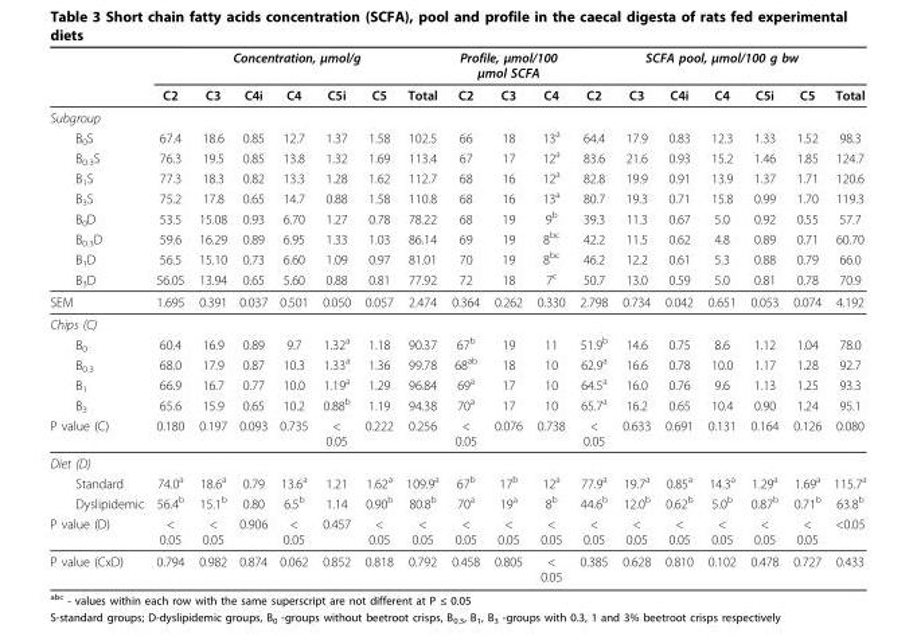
<table><thead><tr><td rowspan="2"></td><td colspan="7">Concentration, μmol/g</td><td colspan="3">Profile, μmol/100 μmol SCFA</td><td colspan="7">SCFA pool, μmol/100 g bw</td></tr><tr><td>C2</td><td>C3</td><td>C4i</td><td>C4</td><td>C5i</td><td>C5</td><td>Total</td><td>C2</td><td>C3</td><td>C4</td><td>C2</td><td>C3</td><td>C4i</td><td>C4</td><td>C5i</td><td>C5</td><td>Total</td></tr></thead><tbody><tr><td colspan="18">Subgroup</td></tr><tr><td>B<sub>0</sub>S</td><td>67.4</td><td>18.6</td><td>0.85</td><td>12.7</td><td>1.37</td><td>1.58</td><td>102.5</td><td>66</td><td>18</td><td>13<sup>a</sup></td><td>64.4</td><td>17.9</td><td>0.83</td><td>12.3</td><td>1.33</td><td>1.52</td><td>98.3</td></tr><tr><td>B<sub>0.3</sub>S</td><td>76.3</td><td>19.5</td><td>0.85</td><td>13.8</td><td>1.32</td><td>1.69</td><td>113.4</td><td>67</td><td>17</td><td>12<sup>a</sup></td><td>83.6</td><td>21.6</td><td>0.93</td><td>15.2</td><td>1.46</td><td>1.85</td><td>124.7</td></tr><tr><td>B<sub>1</sub>S</td><td>77.3</td><td>18.3</td><td>0.82</td><td>13.3</td><td>1.28</td><td>1.62</td><td>112.7</td><td>68</td><td>16</td><td>12<sup>a</sup></td><td>82.8</td><td>19.9</td><td>0.91</td><td>13.9</td><td>1.37</td><td>1.71</td><td>120.6</td></tr><tr><td>B<sub>3</sub>S</td><td>75.2</td><td>17.8</td><td>0.65</td><td>14.7</td><td>0.88</td><td>1.58</td><td>110.8</td><td>68</td><td>16</td><td>13<sup>a</sup></td><td>80.7</td><td>19.3</td><td>0.71</td><td>15.8</td><td>0.99</td><td>1.70</td><td>119.3</td></tr><tr><td>B<sub>0</sub>D</td><td>53.5</td><td>15.08</td><td>0.93</td><td>6.70</td><td>1.27</td><td>0.78</td><td>78.22</td><td>68</td><td>19</td><td>9<sup>b</sup></td><td>39.3</td><td>11.3</td><td>0.67</td><td>5.0</td><td>0.92</td><td>0.55</td><td>57.7</td></tr><tr><td>B<sub>0.3</sub>D</td><td>59.6</td><td>16.29</td><td>0.89</td><td>6.95</td><td>1.33</td><td>1.03</td><td>86.14</td><td>69</td><td>19</td><td>8<sup>bc</sup></td><td>42.2</td><td>11.5</td><td>0.62</td><td>4.8</td><td>0.89</td><td>0.71</td><td>60.70</td></tr><tr><td>B<sub>1</sub>D</td><td>56.5</td><td>15.10</td><td>0.73</td><td>6.60</td><td>1.09</td><td>0.97</td><td>81.01</td><td>70</td><td>19</td><td>8<sup>bc</sup></td><td>46.2</td><td>12.2</td><td>0.61</td><td>5.3</td><td>0.88</td><td>0.79</td><td>66.0</td></tr><tr><td>B<sub>3</sub>D</td><td>56.05</td><td>13.94</td><td>0.65</td><td>5.60</td><td>0.88</td><td>0.81</td><td>77.92</td><td>72</td><td>18</td><td>7<sup>c</sup></td><td>50.7</td><td>13.0</td><td>0.59</td><td>5.0</td><td>0.81</td><td>0.78</td><td>70.9</td></tr><tr><td>SEM</td><td>1.695</td><td>0.391</td><td>0.037</td><td>0.501</td><td>0.050</td><td>0.057</td><td>2.474</td><td>0.364</td><td>0.262</td><td>0.330</td><td>2.798</td><td>0.734</td><td>0.042</td><td>0.651</td><td>0.053</td><td>0.074</td><td>4.192</td></tr><tr><td colspan="18">Chips (C)</td></tr><tr><td>B<sub>0</sub></td><td>60.4</td><td>16.9</td><td>0.89</td><td>9.7</td><td>1.32<sup>a</sup></td><td>1.18</td><td>90.37</td><td>67<sup>b</sup></td><td>19</td><td>11</td><td>51.9<sup>b</sup></td><td>14.6</td><td>0.75</td><td>8.6</td><td>1.12</td><td>1.04</td><td>78.0</td></tr><tr><td>B<sub>0.3</sub></td><td>68.0</td><td>17.9</td><td>0.87</td><td>10.3</td><td>1.33<sup>a</sup></td><td>1.36</td><td>99.78</td><td>68<sup>ab</sup></td><td>18</td><td>10</td><td>62.9<sup>a</sup></td><td>16.6</td><td>0.78</td><td>10.0</td><td>1.17</td><td>1.28</td><td>92.7</td></tr><tr><td>B<sub>1</sub></td><td>66.9</td><td>16.7</td><td>0.77</td><td>10.0</td><td>1.19<sup>a</sup></td><td>1.29</td><td>96.84</td><td>69<sup>a</sup></td><td>17</td><td>10</td><td>64.5<sup>a</sup></td><td>16.0</td><td>0.76</td><td>9.6</td><td>1.13</td><td>1.25</td><td>93.3</td></tr><tr><td>B<sub>3</sub></td><td>65.6</td><td>15.9</td><td>0.65</td><td>10.2</td><td>0.88<sup>b</sup></td><td>1.19</td><td>94.38</td><td>70<sup>a</sup></td><td>17</td><td>10</td><td>65.7<sup>a</sup></td><td>16.2</td><td>0.65</td><td>10.4</td><td>0.90</td><td>1.24</td><td>95.1</td></tr><tr><td>P value (C)</td><td>0.180</td><td>0.197</td><td>0.093</td><td>0.735</td><td>&lt; 0.05</td><td>0.222</td><td>0.256</td><td>&lt; 0.05</td><td>0.076</td><td>0.738</td><td>&lt; 0.05</td><td>0.633</td><td>0.691</td><td>0.131</td><td>0.164</td><td>0.126</td><td>0.080</td></tr><tr><td colspan="18">Diet (D)</td></tr><tr><td>Standard</td><td>74.0<sup>a</sup></td><td>18.6<sup>a</sup></td><td>0.79</td><td>13.6<sup>a</sup></td><td>1.21</td><td>1.62<sup>a</sup></td><td>109.9<sup>a</sup></td><td>67<sup>b</sup></td><td>17<sup>b</sup></td><td>12<sup>a</sup></td><td>77.9<sup>a</sup></td><td>19.7<sup>a</sup></td><td>0.85<sup>a</sup></td><td>14.3<sup>a</sup></td><td>1.29<sup>a</sup></td><td>1.69<sup>a</sup></td><td>115.7<sup>a</sup></td></tr><tr><td>Dyslipidemic</td><td>56.4<sup>b</sup></td><td>15.1<sup>b</sup></td><td>0.80</td><td>6.5<sup>b</sup></td><td>1.14</td><td>0.90<sup>b</sup></td><td>80.8<sup>b</sup></td><td>70<sup>a</sup></td><td>19<sup>a</sup></td><td>8<sup>b</sup></td><td>44.6<sup>b</sup></td><td>12.0<sup>b</sup></td><td>0.62<sup>b</sup></td><td>5.0<sup>b</sup></td><td>0.87<sup>b</sup></td><td>0.71<sup>b</sup></td><td>63.8<sup>b</sup></td></tr><tr><td>P value (D)</td><td>&lt; 0.05</td><td>&lt; 0.05</td><td>0.906</td><td>&lt; 0.05</td><td>0.457</td><td>&lt; 0.05</td><td>&lt; 0.05</td><td>&lt; 0.05</td><td>&lt; 0.05</td><td>&lt; 0.05</td><td>&lt; 0.05</td><td>&lt; 0.05</td><td>&lt; 0.05</td><td>&lt; 0.05</td><td>&lt; 0.05</td><td>&lt; 0.05</td><td>&lt;0.05</td></tr><tr><td>P value (CxD)</td><td>0.794</td><td>0.982</td><td>0.874</td><td>0.062</td><td>0.852</td><td>0.818</td><td>0.792</td><td>0.458</td><td>0.805</td><td>&lt; 0.05</td><td>0.385</td><td>0.628</td><td>0.810</td><td>0.102</td><td>0.478</td><td>0.727</td><td>0.433</td></tr></tbody></table>